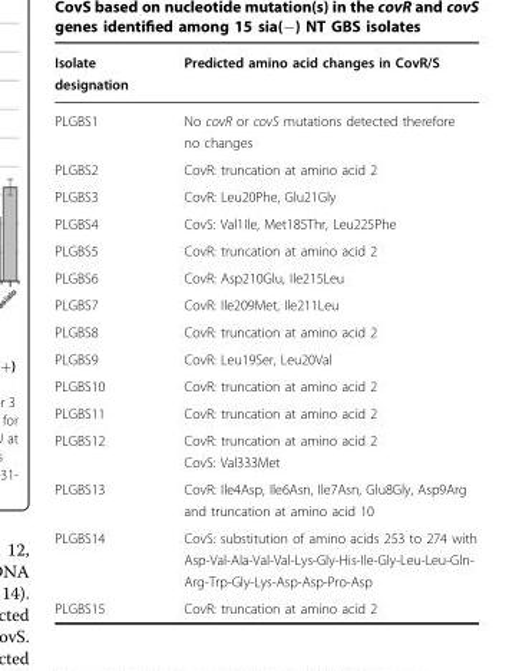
<table><thead><tr><td>Isolate designation</td><td>Predicted amino acid changes in CovR/S</td></tr></thead><tbody><tr><td>PLGBS1</td><td>No covR or covS mutations detected therefore no changes</td></tr><tr><td>PLGBS2</td><td>CovR: truncation at amino acid 2</td></tr><tr><td>PLGBS3</td><td>CovR: Leu20Phe, Glu21Gly</td></tr><tr><td>PLGBS4</td><td>CovS: Val1Ile, Met185Thr, Leu225Phe</td></tr><tr><td>PLGBS5</td><td>CovR: truncation at amino acid 2</td></tr><tr><td>PLGBS6</td><td>CovR: Asp210Glu, Ile215Leu</td></tr><tr><td>PLGBS7</td><td>CovR: Ile209Met, Ile211Leu</td></tr><tr><td>PLGBS8</td><td>CovR: truncation at amino acid 2</td></tr><tr><td>PLGBS9</td><td>CovR: Leu19Ser, Leu20Val</td></tr><tr><td>PLGBS10</td><td>CovR: truncation at amino acid 2</td></tr><tr><td>PLGBS11</td><td>CovR: truncation at amino acid 2</td></tr><tr><td>PLGBS12</td><td>CovR: truncation at amino acid 2 CovS: Val333Met</td></tr><tr><td>PLGBS13</td><td>CovR: Ile4Asp, Ile6Asn, Ile7Asn, Glu8Gly, Asp9Arg and truncation at amino acid 10</td></tr><tr><td>PLGBS14</td><td>CovS: substitution of amino acids 253 to 274 with Asp-Val-Ala-Val-Val-Lys-Gly-His-Ile-Gly-Leu-Leu-Gln- Arg-Trp-Gly-Lys-Asp-Asp-Pro-Asp</td></tr><tr><td>PLGBS15</td><td>CovR: truncation at amino acid 2</td></tr></tbody></table>